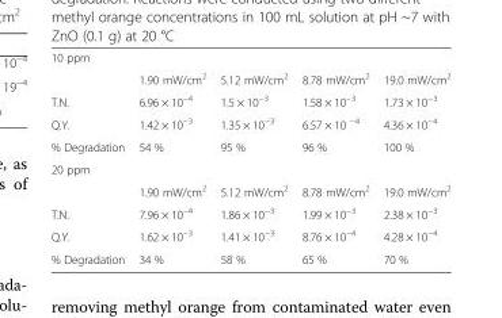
<table><tbody><tr><td colspan="5">10 ppm</td></tr><tr><td></td><td>1.90 mW/cm<sup>2</sup></td><td>5.12 mW/cm<sup>2</sup></td><td>8.78 mW/cm<sup>2</sup></td><td>19.0 mW/cm<sup>2</sup></td></tr><tr><td>T.N.</td><td>6.96 × 10<sup>−4</sup></td><td>1.5 × 10<sup>−3</sup></td><td>1.58 × 10<sup>−3</sup></td><td>1.73 × 10<sup>−3</sup></td></tr><tr><td>Q.Y.</td><td>1.42 × 10<sup>−3</sup></td><td>1.35 × 10<sup>−3</sup></td><td>6.57 × 10 <sup>−4</sup></td><td>4.36 × 10<sup>−4</sup></td></tr><tr><td>% Degradation</td><td>54 %</td><td>95 %</td><td>96 %</td><td>100 %</td></tr><tr><td colspan="5">20 ppm</td></tr><tr><td></td><td>1.90 mW/cm<sup>2</sup></td><td>5.12 mW/cm<sup>2</sup></td><td>8.78 mW/cm<sup>2</sup></td><td>19.0 mW/cm<sup>2</sup></td></tr><tr><td>T.N.</td><td>7.96 × 10<sup>−4</sup></td><td>1.86 × 10<sup>−3</sup></td><td>1.99 × 10<sup>−3</sup></td><td>2.38 × 10<sup>−3</sup></td></tr><tr><td>Q.Y.</td><td>1.62 × 10<sup>−3</sup></td><td>1.41 × 10<sup>−3</sup></td><td>8.76 × 10<sup>−4</sup></td><td>4.28 × 10<sup>−4</sup></td></tr><tr><td>% Degradation</td><td>34 %</td><td>58 %</td><td>65 %</td><td>70 %</td></tr></tbody></table>